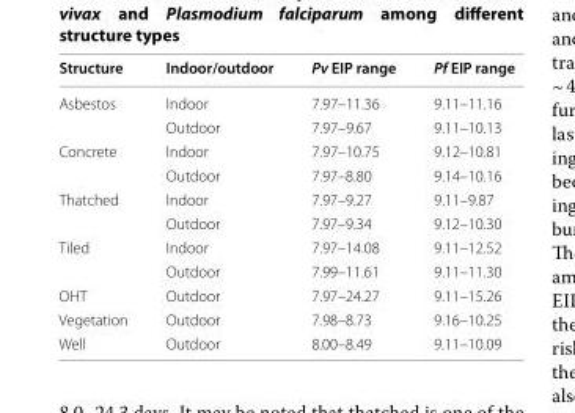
<table><thead><tr><td>Structure</td><td>Indoor/outdoor</td><td>Pv EIP range</td><td>Pf EIP range</td></tr></thead><tbody><tr><td rowspan="2">Asbestos</td><td>Indoor</td><td>7.97–11.36</td><td>9.11–11.16</td></tr><tr><td>Outdoor</td><td>7.97–9.67</td><td>9.11–10.13</td></tr><tr><td rowspan="2">Concrete</td><td>Indoor</td><td>7.97–10.75</td><td>9.12–10.81</td></tr><tr><td>Outdoor</td><td>7.97–8.80</td><td>9.14–10.16</td></tr><tr><td rowspan="2">Thatched</td><td>Indoor</td><td>7.97–9.27</td><td>9.11–9.87</td></tr><tr><td>Outdoor</td><td>7.97–9.34</td><td>9.12–10.30</td></tr><tr><td rowspan="2">Tiled</td><td>Indoor</td><td>7.97–14.08</td><td>9.11–12.52</td></tr><tr><td>Outdoor</td><td>7.99–11.61</td><td>9.11–11.30</td></tr><tr><td>OHT</td><td>Outdoor</td><td>7.97–24.27</td><td>9.11–15.26</td></tr><tr><td>Vegetation</td><td>Outdoor</td><td>7.98–8.73</td><td>9.16–10.25</td></tr><tr><td>Well</td><td>Outdoor</td><td>8.00–8.49</td><td>9.11–10.09</td></tr></tbody></table>